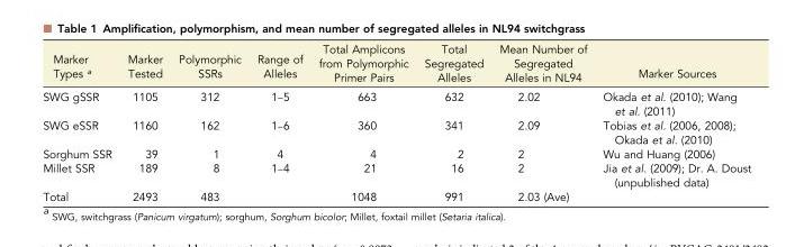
<table><thead><tr><td>Marker Types <sup>a</sup></td><td>Marker Tested</td><td>Polymorphic SSRs</td><td>Range of Alleles</td><td>Total Amplicons from Polymorphic Primer Pairs</td><td>Total Segregated Alleles</td><td>Mean Number of Segregated Alleles in NL94</td><td>Marker Sources</td></tr></thead><tbody><tr><td>SWG gSSR</td><td>1105</td><td>312</td><td>1–5</td><td>663</td><td>632</td><td>2.02</td><td>Okada et al. (2010); Wang et al. (2011)</td></tr><tr><td>SWG eSSR</td><td>1160</td><td>162</td><td>1–6</td><td>360</td><td>341</td><td>2.09</td><td>Tobias et al. (2006, 2008); Okada et al. (2010)</td></tr><tr><td>Sorghum SSR</td><td>39</td><td>1</td><td>4</td><td>4</td><td>2</td><td>2</td><td>Wu and Huang (2006)</td></tr><tr><td>Millet SSR</td><td>189</td><td>8</td><td>1–4</td><td>21</td><td>16</td><td>2</td><td>Jia et al. (2009); Dr. A. Doust (unpublished data)</td></tr><tr><td>Total</td><td>2493</td><td>483</td><td></td><td>1048</td><td>991</td><td>2.03 (Ave)</td><td></td></tr></tbody></table>